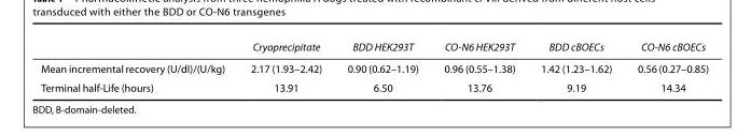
<table><thead><tr><td></td><td>Cryoprecipitate</td><td>BDD HEK293T</td><td>CO-N6 HEK293T</td><td>BDD cBOECs</td><td>CO-N6 cBOECs</td></tr></thead><tbody><tr><td>Mean incremental recovery (U/dl)/(U/kg)</td><td>2.17 (1.93–2.42)</td><td>0.90 (0.62–1.19)</td><td>0.96 (0.55–1.38)</td><td>1.42 (1.23–1.62)</td><td>0.56 (0.27–0.85)</td></tr><tr><td>Terminal half-Life (hours)</td><td>13.91</td><td>6.50</td><td>13.76</td><td>9.19</td><td>14.34</td></tr></tbody></table>